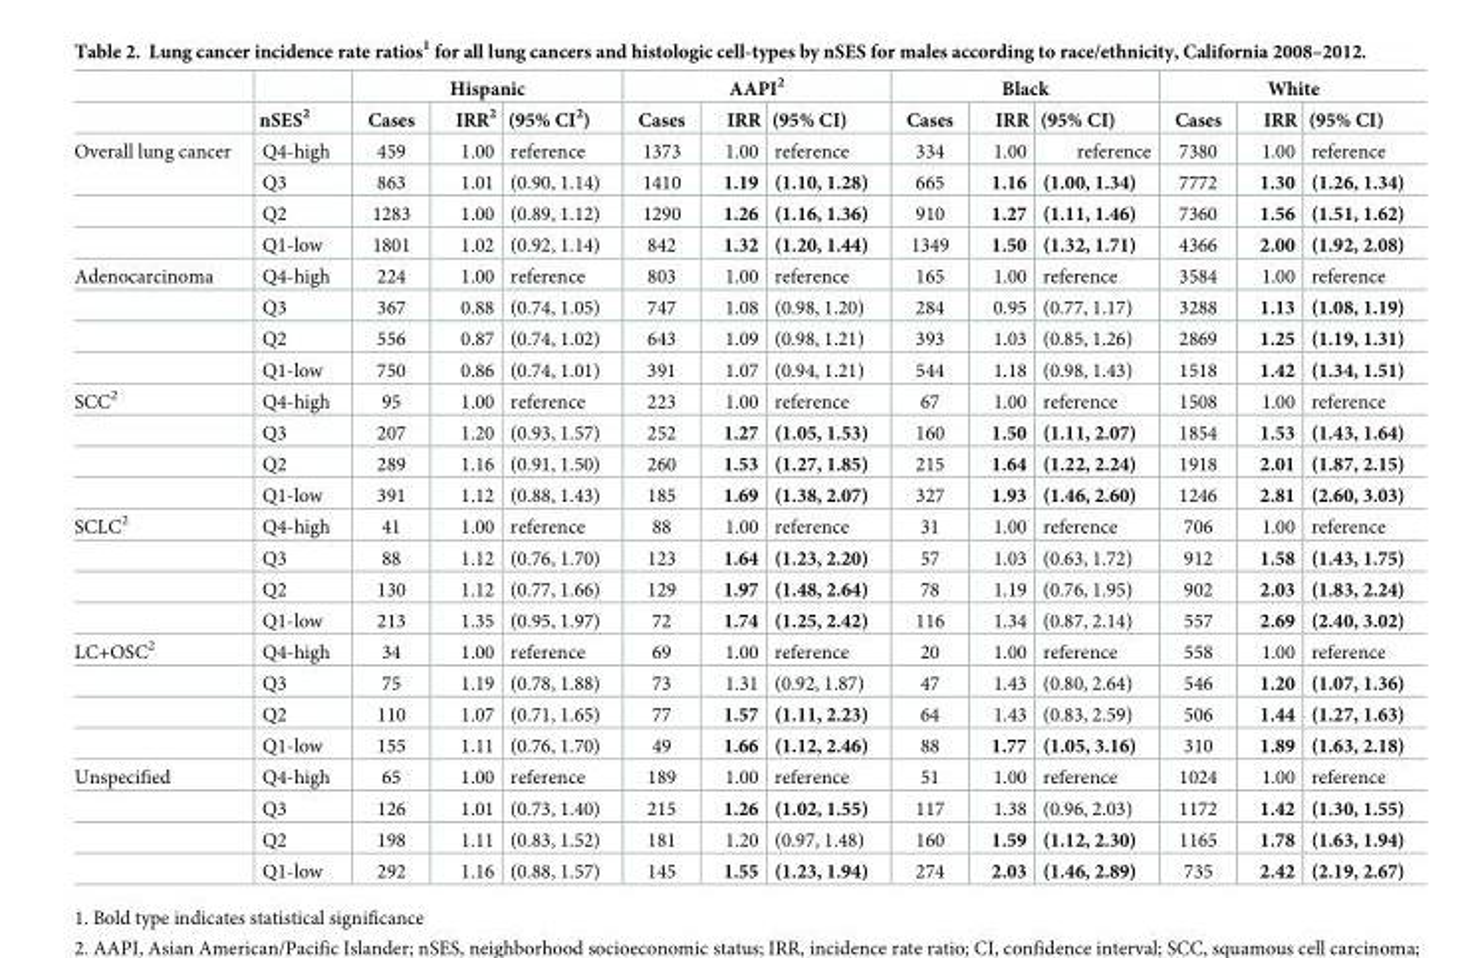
<table><thead><tr><td rowspan="2"></td><td rowspan="2">nSES<sup>2</sup></td><td colspan="3">Hispanic</td><td colspan="3">AAPI<sup>2</sup></td><td colspan="3">Black</td><td colspan="3">White</td></tr><tr><td>Cases</td><td>IRR<sup>2</sup></td><td>(95% CI<sup>2</sup>)</td><td>Cases</td><td>IRR</td><td>(95% CI)</td><td>Cases</td><td>IRR</td><td>(95% CI)</td><td>Cases</td><td>IRR</td><td>(95% CI)</td></tr></thead><tbody><tr><td rowspan="4">Overall lung cancer</td><td>Q4-high</td><td>459</td><td>1.00</td><td>reference</td><td>1373</td><td>1.00</td><td>reference</td><td>334</td><td>1.00</td><td>reference</td><td>7380</td><td>1.00</td><td>reference</td></tr><tr><td>Q3</td><td>863</td><td>1.01</td><td>(0.90, 1.14)</td><td>1410</td><td>1.19</td><td>(1.10, 1.28)</td><td>665</td><td>1.16</td><td>(1.00, 1.34)</td><td>7772</td><td>1.30</td><td>(1.26, 1.34)</td></tr><tr><td>Q2</td><td>1283</td><td>1.00</td><td>(0.89, 1.12)</td><td>1290</td><td>1.26</td><td>(1.16, 1.36)</td><td>910</td><td>1.27</td><td>(1.11, 1.46)</td><td>7360</td><td>1.56</td><td>(1.51, 1.62)</td></tr><tr><td>Q1-low</td><td>1801</td><td>1.02</td><td>(0.92, 1.14)</td><td>842</td><td>1.32</td><td>(1.20, 1.44)</td><td>1349</td><td>1.50</td><td>(1.32, 1.71)</td><td>4366</td><td>2.00</td><td>(1.92, 2.08)</td></tr><tr><td rowspan="4">Adenocarcinoma</td><td>Q4-high</td><td>224</td><td>1.00</td><td>reference</td><td>803</td><td>1.00</td><td>reference</td><td>165</td><td>1.00</td><td>reference</td><td>3584</td><td>1.00</td><td>reference</td></tr><tr><td>Q3</td><td>367</td><td>0.88</td><td>(0.74, 1.05)</td><td>747</td><td>1.08</td><td>(0.98, 1.20)</td><td>284</td><td>0.95</td><td>(0.77, 1.17)</td><td>3288</td><td>1.13</td><td>(1.08, 1.19)</td></tr><tr><td>Q2</td><td>556</td><td>0.87</td><td>(0.74, 1.02)</td><td>643</td><td>1.09</td><td>(0.98, 1.21)</td><td>393</td><td>1.03</td><td>(0.85, 1.26)</td><td>2869</td><td>1.25</td><td>(1.19, 1.31)</td></tr><tr><td>Q1-low</td><td>750</td><td>0.86</td><td>(0.74, 1.01)</td><td>391</td><td>1.07</td><td>(0.94, 1.21)</td><td>544</td><td>1.18</td><td>(0.98, 1.43)</td><td>1518</td><td>1.42</td><td>(1.34, 1.51)</td></tr><tr><td rowspan="4">SCC<sup>2</sup></td><td>Q4-high</td><td>95</td><td>1.00</td><td>reference</td><td>223</td><td>1.00</td><td>reference</td><td>67</td><td>1.00</td><td>reference</td><td>1508</td><td>1.00</td><td>reference</td></tr><tr><td>Q3</td><td>207</td><td>1.20</td><td>(0.93, 1.57)</td><td>252</td><td>1.27</td><td>(1.05, 1.53)</td><td>160</td><td>1.50</td><td>(1.11, 2.07)</td><td>1854</td><td>1.53</td><td>(1.43, 1.64)</td></tr><tr><td>Q2</td><td>289</td><td>1.16</td><td>(0.91, 1.50)</td><td>260</td><td>1.53</td><td>(1.27, 1.85)</td><td>215</td><td>1.64</td><td>(1.22, 2.24)</td><td>1918</td><td>2.01</td><td>(1.87, 2.15)</td></tr><tr><td>Q1-low</td><td>391</td><td>1.12</td><td>(0.88, 1.43)</td><td>185</td><td>1.69</td><td>(1.38, 2.07)</td><td>327</td><td>1.93</td><td>(1.46, 2.60)</td><td>1246</td><td>2.81</td><td>(2.60, 3.03)</td></tr><tr><td rowspan="4">SCLC<sup>2</sup></td><td>Q4-high</td><td>41</td><td>1.00</td><td>reference</td><td>88</td><td>1.00</td><td>reference</td><td>31</td><td>1.00</td><td>reference</td><td>706</td><td>1.00</td><td>reference</td></tr><tr><td>Q3</td><td>88</td><td>1.12</td><td>(0.76, 1.70)</td><td>123</td><td>1.64</td><td>(1.23, 2.20)</td><td>57</td><td>1.03</td><td>(0.63, 1.72)</td><td>912</td><td>1.58</td><td>(1.43, 1.75)</td></tr><tr><td>Q2</td><td>130</td><td>1.12</td><td>(0.77, 1.66)</td><td>129</td><td>1.97</td><td>(1.48, 2.64)</td><td>78</td><td>1.19</td><td>(0.76, 1.95)</td><td>902</td><td>2.03</td><td>(1.83, 2.24)</td></tr><tr><td>Q1-low</td><td>213</td><td>1.35</td><td>(0.95, 1.97)</td><td>72</td><td>1.74</td><td>(1.25, 2.42)</td><td>116</td><td>1.34</td><td>(0.87, 2.14)</td><td>557</td><td>2.69</td><td>(2.40, 3.02)</td></tr><tr><td rowspan="4">LC+OSC<sup>2</sup></td><td>Q4-high</td><td>34</td><td>1.00</td><td>reference</td><td>69</td><td>1.00</td><td>reference</td><td>20</td><td>1.00</td><td>reference</td><td>558</td><td>1.00</td><td>reference</td></tr><tr><td>Q3</td><td>75</td><td>1.19</td><td>(0.78, 1.88)</td><td>73</td><td>1.31</td><td>(0.92, 1.87)</td><td>47</td><td>1.43</td><td>(0.80, 2.64)</td><td>546</td><td>1.20</td><td>(1.07, 1.36)</td></tr><tr><td>Q2</td><td>110</td><td>1.07</td><td>(0.71, 1.65)</td><td>77</td><td>1.57</td><td>(1.11, 2.23)</td><td>64</td><td>1.43</td><td>(0.83, 2.59)</td><td>506</td><td>1.44</td><td>(1.27, 1.63)</td></tr><tr><td>Q1-low</td><td>155</td><td>1.11</td><td>(0.76, 1.70)</td><td>49</td><td>1.66</td><td>(1.12, 2.46)</td><td>88</td><td>1.77</td><td>(1.05, 3.16)</td><td>310</td><td>1.89</td><td>(1.63, 2.18)</td></tr><tr><td rowspan="4">Unspecified</td><td>Q4-high</td><td>65</td><td>1.00</td><td>reference</td><td>189</td><td>1.00</td><td>reference</td><td>51</td><td>1.00</td><td>reference</td><td>1024</td><td>1.00</td><td>reference</td></tr><tr><td>Q3</td><td>126</td><td>1.01</td><td>(0.73, 1.40)</td><td>215</td><td>1.26</td><td>(1.02, 1.55)</td><td>117</td><td>1.38</td><td>(0.96, 2.03)</td><td>1172</td><td>1.42</td><td>(1.30, 1.55)</td></tr><tr><td>Q2</td><td>198</td><td>1.11</td><td>(0.83, 1.52)</td><td>181</td><td>1.20</td><td>(0.97, 1.48)</td><td>160</td><td>1.59</td><td>(1.12, 2.30)</td><td>1165</td><td>1.78</td><td>(1.63, 1.94)</td></tr><tr><td>Q1-low</td><td>292</td><td>1.16</td><td>(0.88, 1.57)</td><td>145</td><td>1.55</td><td>(1.23, 1.94)</td><td>274</td><td>2.03</td><td>(1.46, 2.89)</td><td>735</td><td>2.42</td><td>(2.19, 2.67)</td></tr></tbody></table>